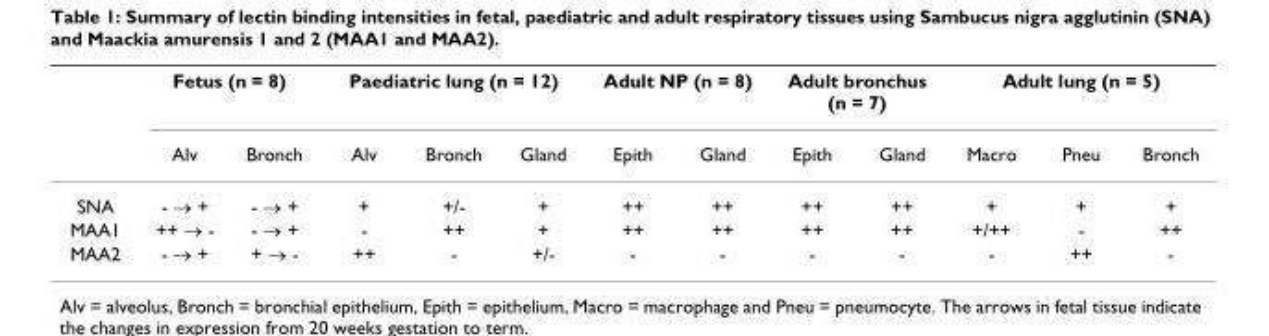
<table><thead><tr><td rowspan="2"></td><td colspan="2">Fetus (n = 8)</td><td colspan="3">Paediatric lung (n = 12)</td><td colspan="2">Adult NP (n = 8)</td><td colspan="2">Adult bronchus (n = 7)</td><td colspan="3">Adult lung (n = 5)</td></tr><tr><td>Alv</td><td>Bronch</td><td>Alv</td><td>Bronch</td><td>Gland</td><td>Epith</td><td>Gland</td><td>Epith</td><td>Gland</td><td>Macro</td><td>Pneu</td><td>Bronch</td></tr></thead><tbody><tr><td>SNA</td><td>- → +</td><td>- → +</td><td>+</td><td>+/-</td><td>+</td><td>++</td><td>++</td><td>++</td><td>++</td><td>+</td><td>+</td><td>+</td></tr><tr><td>MAA1</td><td>++ → -</td><td>- → +</td><td>-</td><td>++</td><td>+</td><td>++</td><td>++</td><td>++</td><td>++</td><td>+/++</td><td>-</td><td>++</td></tr><tr><td>MAA2</td><td>- → +</td><td>+ → -</td><td>++</td><td>-</td><td>+/-</td><td>-</td><td>-</td><td>-</td><td>-</td><td>-</td><td>++</td><td>-</td></tr></tbody></table>